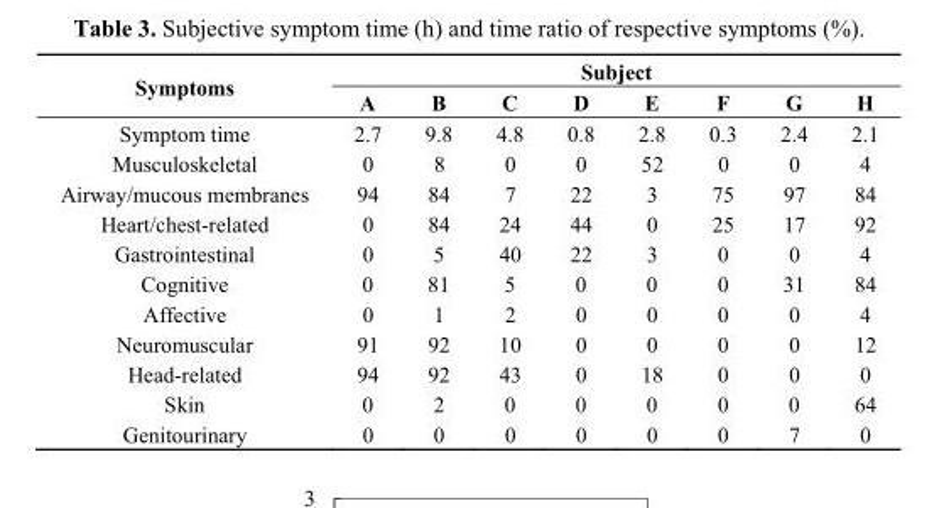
<table><thead><tr><td rowspan="2">Symptoms</td><td colspan="8">Subject</td></tr><tr><td>A</td><td>B</td><td>C</td><td>D</td><td>E</td><td>F</td><td>G</td><td>H</td></tr></thead><tbody><tr><td>Symptom time</td><td>2.7</td><td>9.8</td><td>4.8</td><td>0.8</td><td>2.8</td><td>0.3</td><td>2.4</td><td>2.1</td></tr><tr><td>Musculoskeletal</td><td>0</td><td>8</td><td>0</td><td>0</td><td>52</td><td>0</td><td>0</td><td>4</td></tr><tr><td>Airway/mucous membranes</td><td>94</td><td>84</td><td>7</td><td>22</td><td>3</td><td>75</td><td>97</td><td>84</td></tr><tr><td>Heart/chest-related</td><td>0</td><td>84</td><td>24</td><td>44</td><td>0</td><td>25</td><td>17</td><td>92</td></tr><tr><td>Gastrointestinal</td><td>0</td><td>5</td><td>40</td><td>22</td><td>3</td><td>0</td><td>0</td><td>4</td></tr><tr><td>Cognitive</td><td>0</td><td>81</td><td>5</td><td>0</td><td>0</td><td>0</td><td>31</td><td>84</td></tr><tr><td>Affective</td><td>0</td><td>1</td><td>2</td><td>0</td><td>0</td><td>0</td><td>0</td><td>4</td></tr><tr><td>Neuromuscular</td><td>91</td><td>92</td><td>10</td><td>0</td><td>0</td><td>0</td><td>0</td><td>12</td></tr><tr><td>Head-related</td><td>94</td><td>92</td><td>43</td><td>0</td><td>18</td><td>0</td><td>0</td><td>0</td></tr><tr><td>Skin</td><td>0</td><td>2</td><td>0</td><td>0</td><td>0</td><td>0</td><td>0</td><td>64</td></tr><tr><td>Genitourinary</td><td>0</td><td>0</td><td>0</td><td>0</td><td>0</td><td>0</td><td>7</td><td>0</td></tr></tbody></table>